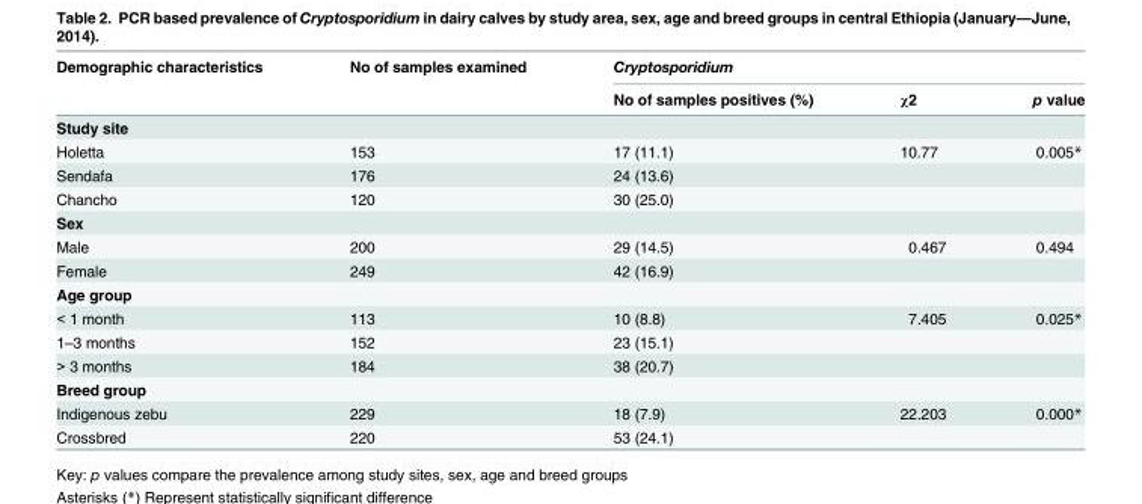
<table><thead><tr><td rowspan="2">Demographic characteristics</td><td rowspan="2">No of samples examined</td><td colspan="3">Cryptosporidium</td></tr><tr><td>No of samples positives (%)</td><td>χ2</td><td>p value</td></tr></thead><tbody><tr><td colspan="5">Study site</td></tr><tr><td>Holetta</td><td>153</td><td>17 (11.1)</td><td>10.77</td><td>0.005*</td></tr><tr><td>Sendafa</td><td>176</td><td>24 (13.6)</td><td></td><td></td></tr><tr><td>Chancho</td><td>120</td><td>30 (25.0)</td><td></td><td></td></tr><tr><td colspan="5">Sex</td></tr><tr><td>Male</td><td>200</td><td>29 (14.5)</td><td>0.467</td><td>0.494</td></tr><tr><td>Female</td><td>249</td><td>42 (16.9)</td><td></td><td></td></tr><tr><td colspan="5">Age group</td></tr><tr><td>&lt; 1 month</td><td>113</td><td>10 (8.8)</td><td>7.405</td><td>0.025*</td></tr><tr><td>1–3 months</td><td>152</td><td>23 (15.1)</td><td></td><td></td></tr><tr><td>&gt; 3 months</td><td>184</td><td>38 (20.7)</td><td></td><td></td></tr><tr><td colspan="5">Breed group</td></tr><tr><td>Indigenous zebu</td><td>229</td><td>18 (7.9)</td><td>22.203</td><td>0.000*</td></tr><tr><td>Crossbred</td><td>220</td><td>53 (24.1)</td><td></td><td></td></tr></tbody></table>